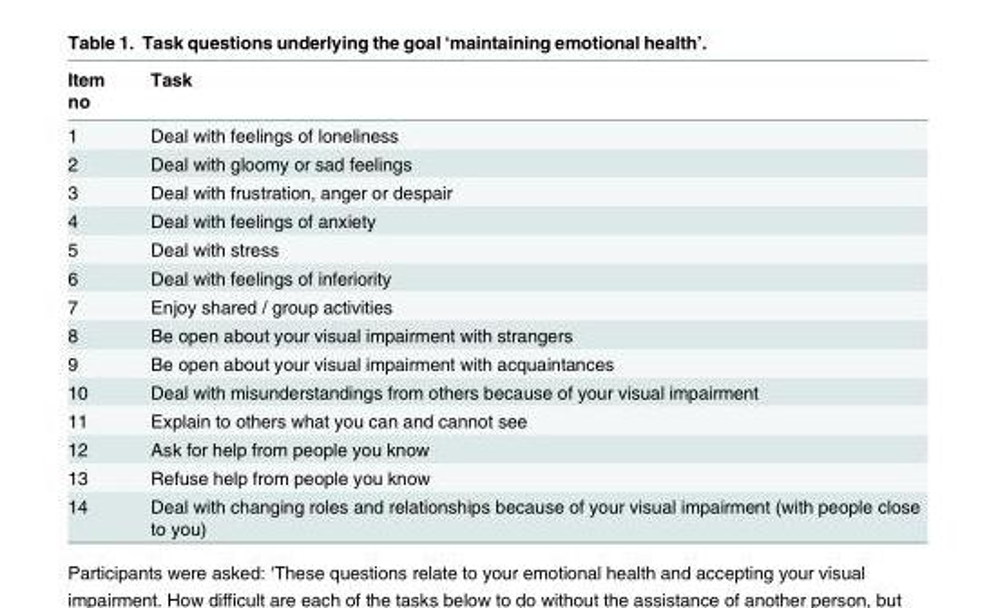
<table><thead><tr><td>Item no</td><td>Task</td></tr></thead><tbody><tr><td>1</td><td>Deal with feelings of loneliness</td></tr><tr><td>2</td><td>Deal with gloomy or sad feelings</td></tr><tr><td>3</td><td>Deal with frustration, anger or despair</td></tr><tr><td>4</td><td>Deal with feelings of anxiety</td></tr><tr><td>5</td><td>Deal with stress</td></tr><tr><td>6</td><td>Deal with feelings of inferiority</td></tr><tr><td>7</td><td>Enjoy shared / group activities</td></tr><tr><td>8</td><td>Be open about your visual impairment with strangers</td></tr><tr><td>9</td><td>Be open about your visual impairment with acquaintances</td></tr><tr><td>10</td><td>Deal with misunderstandings from others because of your visual impairment</td></tr><tr><td>11</td><td>Explain to others what you can and cannot see</td></tr><tr><td>12</td><td>Ask for help from people you know</td></tr><tr><td>13</td><td>Refuse help from people you know</td></tr><tr><td>14</td><td>Deal with changing roles and relationships because of your visual impairment (with people close to you)</td></tr></tbody></table>